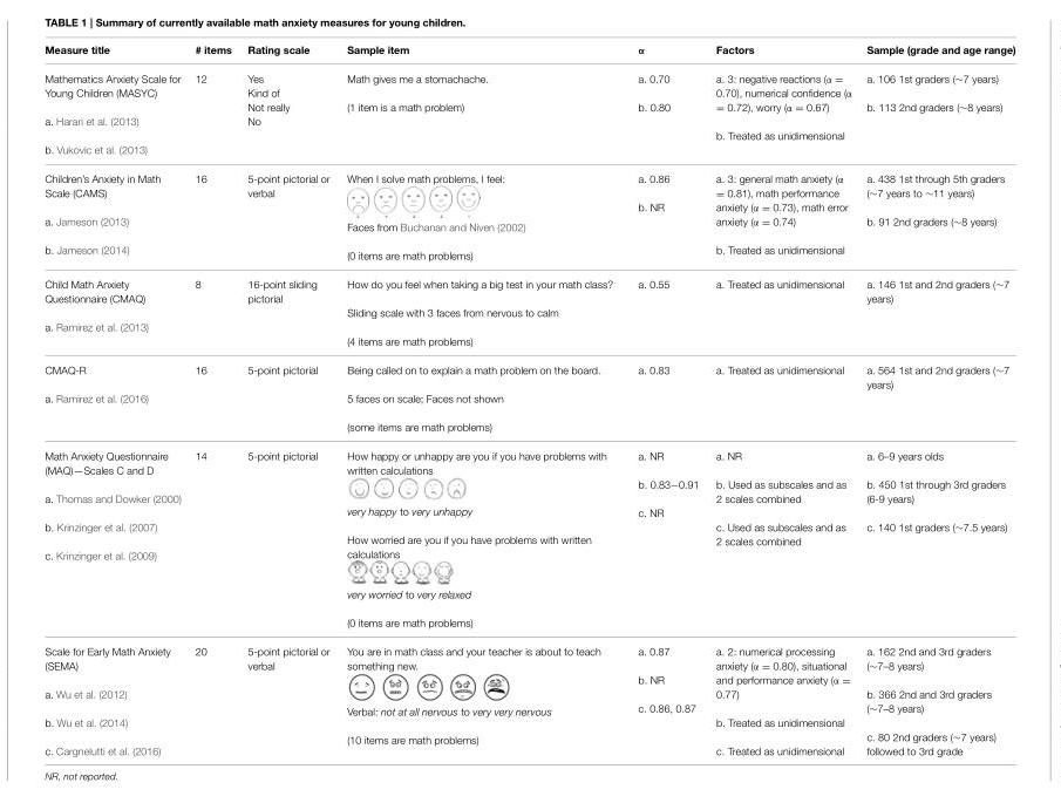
<table><thead><tr><td>Measure title</td><td># items</td><td>Rating scale</td><td>Sample item</td><td>α</td><td>Factors</td><td>Sample (grade and age range)</td></tr></thead><tbody><tr><td>Mathematics Anxiety Scale for Young Children (MASYC) a. Harari et al. (2013) b. Vukovic et al. (2013)</td><td>12</td><td>Yes Kind of Not really No</td><td>Math gives me a stomachache. (1 item is a math problem)</td><td>a. 0.70 b. 0.80</td><td>a. 3: negative reactions (α = 0.70), numerical confidence (α = 0.72), worry (α = 0.67) b. Treated as unidimensional</td><td>a. 106 1st graders (∼7 years) b. 113 2nd graders (∼8 years)</td></tr><tr><td>Children’s Anxiety in Math Scale (CAMS) a. Jameson (2013) b. Jameson (2014)</td><td>16</td><td>5-point pictorial or verbal</td><td>When I solve math problems, I feel: Faces from Buchanan and Niven (2002) (0 items are math problems)</td><td>a. 0.86 b. NR</td><td>a. 3: general math anxiety (α = 0.81), math performance anxiety (α = 0.73), math error anxiety (α = 0.74) b. Treated as unidimensional</td><td>a. 438 1st through 5th graders (∼7 years to ∼11 years) b. 91 2nd graders (∼8 years)</td></tr><tr><td>Child Math Anxiety Questionnaire (CMAQ) a. Ramirez et al. (2013)</td><td>8</td><td>16-point sliding pictorial</td><td>How do you feel when taking a big test in your math class? Sliding scale with 3 faces from nervous to calm (4 items are math problems)</td><td>a. 0.55</td><td>a. Treated as unidimensional</td><td>a. 146 1st and 2nd graders (∼7 years)</td></tr><tr><td>CMAQ-R a. Ramirez et al. (2016)</td><td>16</td><td>5-point pictorial</td><td>Being called on to explain a math problem on the board. 5 faces on scale; Faces not shown (some items are math problems)</td><td>a. 0.83</td><td>a. Treated as unidimensional</td><td>a. 564 1st and 2nd graders (∼7 years)</td></tr><tr><td>Math Anxiety Questionnaire (MAQ)—Scales C and D a. Thomas and Dowker (2000) b. Krinzinger et al. (2007) c. Krinzinger et al. (2009)</td><td>14</td><td>5-point pictorial</td><td>How happy or unhappy are you if you have problems with written calculations very happy to very unhappy How worried are you if you have problems with written calculations very worried to very relaxed (0 items are math problems)</td><td>a. NR b. 0.83−0.91 c. NR</td><td>a. NR b. Used as subscales and as 2 scales combined c. Used as subscales and as 2 scales combined</td><td>a. 6–9 years olds b. 450 1st through 3rd graders (6-9 years) c. 140 1st graders (∼7.5 years)</td></tr><tr><td>Scale for Early Math Anxiety (SEMA) a. Wu et al. (2012) b. Wu et al. (2014) c. Cargnelutti et al. (2016)</td><td>20</td><td>5-point pictorial or verbal</td><td>You are in math class and your teacher is about to teach something new. Verbal: not at all nervous to very very nervous (10 items are math problems)</td><td>a. 0.87 b. NR c. 0.86, 0.87</td><td>a. 2: numerical processing anxiety (α = 0.80), situational and performance anxiety (α = 0.77) b. Treated as unidimensional c. Treated as unidimensional</td><td>a. 162 2nd and 3rd graders (∼7–8 years) b. 366 2nd and 3rd graders (∼7–8 years) c. 80 2nd graders (∼7 years) followed to 3rd grade</td></tr></tbody></table>